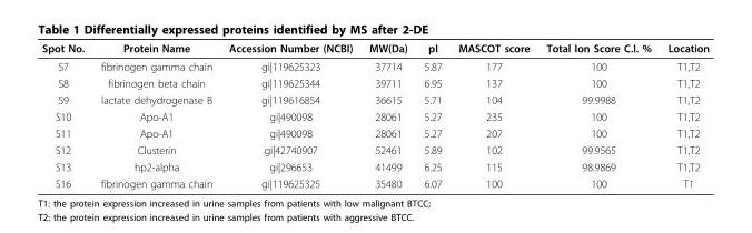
<table><thead><tr><td>Spot No.</td><td>Protein Name</td><td>Accession Number (NCBI)</td><td>MW(Da)</td><td>pI</td><td>MASCOT score</td><td>Total Ion Score C.I. %</td><td>Location</td></tr></thead><tbody><tr><td>S7</td><td>fibrinogen gamma chain</td><td>gi|119625323</td><td>37714</td><td>5.87</td><td>177</td><td>100</td><td>T1,T2</td></tr><tr><td>S8</td><td>fibrinogen beta chain</td><td>gi|119625344</td><td>39711</td><td>6.95</td><td>137</td><td>100</td><td>T1,T2</td></tr><tr><td>S9</td><td>lactate dehydrogenase B</td><td>gi|119616854</td><td>36615</td><td>5.71</td><td>104</td><td>99.9988</td><td>T1,T2</td></tr><tr><td>S10</td><td>Apo-A1</td><td>gi|490098</td><td>28061</td><td>5.27</td><td>235</td><td>100</td><td>T1,T2</td></tr><tr><td>S11</td><td>Apo-A1</td><td>gi|490098</td><td>28061</td><td>5.27</td><td>207</td><td>100</td><td>T1,T2</td></tr><tr><td>S12</td><td>Clusterin</td><td>gi|42740907</td><td>52461</td><td>5.89</td><td>102</td><td>99.9565</td><td>T1,T2</td></tr><tr><td>S13</td><td>hp2-alpha</td><td>gi|296653</td><td>41499</td><td>6.25</td><td>115</td><td>98.9869</td><td>T1,T2</td></tr><tr><td>S16</td><td>fibrinogen gamma chain</td><td>gi|119625325</td><td>35480</td><td>6.07</td><td>100</td><td>100</td><td>T1</td></tr></tbody></table>